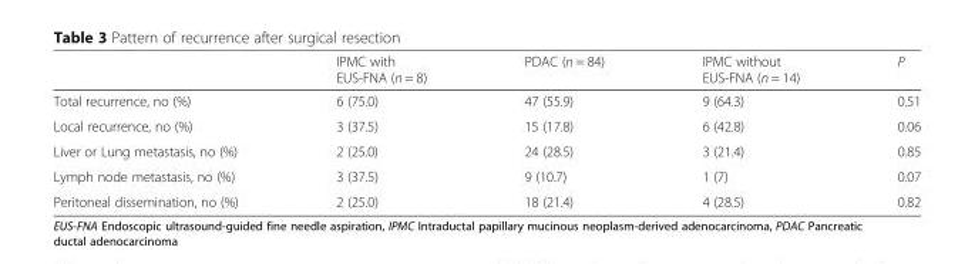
<table><thead><tr><td></td><td>IPMC with EUS-FNA (n = 8)</td><td>PDAC (n = 84)</td><td>IPMC without EUS-FNA (n = 14)</td><td>P</td></tr></thead><tbody><tr><td>Total recurrence, no (%)</td><td>6 (75.0)</td><td>47 (55.9)</td><td>9 (64.3)</td><td>0.51</td></tr><tr><td>Local recurrence, no (%)</td><td>3 (37.5)</td><td>15 (17.8)</td><td>6 (42.8)</td><td>0.06</td></tr><tr><td>Liver or Lung metastasis, no (%)</td><td>2 (25.0)</td><td>24 (28.5)</td><td>3 (21.4)</td><td>0.85</td></tr><tr><td>Lymph node metastasis, no (%)</td><td>3 (37.5)</td><td>9 (10.7)</td><td>1 (7)</td><td>0.07</td></tr><tr><td>Peritoneal dissemination, no (%)</td><td>2 (25.0)</td><td>18 (21.4)</td><td>4 (28.5)</td><td>0.82</td></tr></tbody></table>